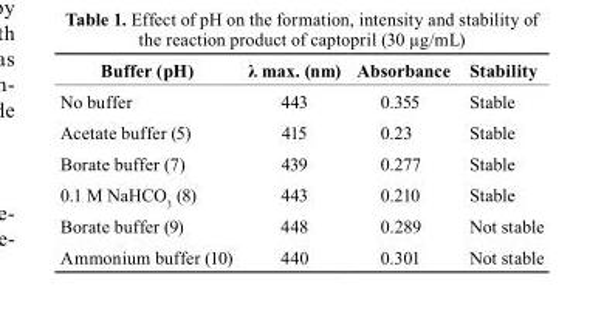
<table><thead><tr><td>Buffer (pH)</td><td>λ max. (nm)</td><td>Absorbance</td><td>stability</td></tr></thead><tbody><tr><td>No buffer</td><td>443</td><td>0.355</td><td>Stable</td></tr><tr><td>Acetate buffer (5)</td><td>415</td><td>0.23</td><td>Stable</td></tr><tr><td>Borate buffer (7)</td><td>439</td><td>0.277</td><td>Stable</td></tr><tr><td>0.1 M NaHCO<sub>3</sub> (8)</td><td>443</td><td>0.210</td><td>Stable</td></tr><tr><td>Borate buffer (9)</td><td>448</td><td>0.289</td><td>Not stable</td></tr><tr><td>Ammonium buffer (10)</td><td>440</td><td>0.301</td><td>Not stable</td></tr></tbody></table>